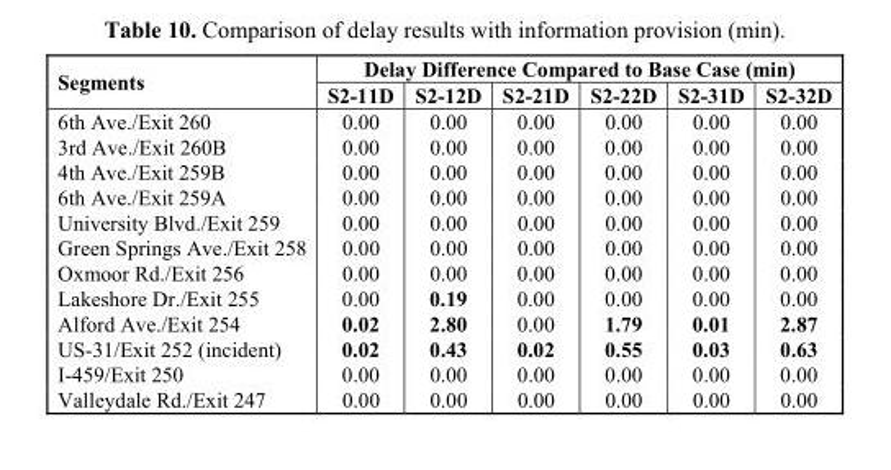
<table><thead><tr><td rowspan="2">Segments</td><td colspan="6">Delay Difference Compared to Base Case (min)</td></tr><tr><td>S2-11D</td><td>S2-12D</td><td>S2-21D</td><td>S2-22D</td><td>S2-31D</td><td>S2-32D</td></tr></thead><tbody><tr><td>6th Ave./Exit 260</td><td>0.00</td><td>0.00</td><td>0.00</td><td>0.00</td><td>0.00</td><td>0.00</td></tr><tr><td>3rd Ave./Exit 260B</td><td>0.00</td><td>0.00</td><td>0.00</td><td>0.00</td><td>0.00</td><td>0.00</td></tr><tr><td>4th Ave./Exit 259B</td><td>0.00</td><td>0.00</td><td>0.00</td><td>0.00</td><td>0.00</td><td>0.00</td></tr><tr><td>6th Ave./Exit 259A</td><td>0.00</td><td>0.00</td><td>0.00</td><td>0.00</td><td>0.00</td><td>0.00</td></tr><tr><td>University Blvd./Exit 259</td><td>0.00</td><td>0.00</td><td>0.00</td><td>0.00</td><td>0.00</td><td>0.00</td></tr><tr><td>Green Springs Ave./Exit 258</td><td>0.00</td><td>0.00</td><td>0.00</td><td>0.00</td><td>0.00</td><td>0.00</td></tr><tr><td>Oxmoor Rd./Exit 256</td><td>0.00</td><td>0.00</td><td>0.00</td><td>0.00</td><td>0.00</td><td>0.00</td></tr><tr><td>Lakeshore Dr./Exit 255</td><td>0.00</td><td>0.19</td><td>0.00</td><td>0.00</td><td>0.00</td><td>0.00</td></tr><tr><td>Alford Ave./Exit 254</td><td>0.02</td><td>2.80</td><td>0.00</td><td>1.79</td><td>0.01</td><td>2.87</td></tr><tr><td>US-31/Exit 252 (incident)</td><td>0.02</td><td>0.43</td><td>0.02</td><td>0.55</td><td>0.03</td><td>0.63</td></tr><tr><td>I-459/Exit 250</td><td>0.00</td><td>0.00</td><td>0.00</td><td>0.00</td><td>0.00</td><td>0.00</td></tr><tr><td>Valleydale Rd./Exit 247</td><td>0.00</td><td>0.00</td><td>0.00</td><td>0.00</td><td>0.00</td><td>0.00</td></tr></tbody></table>